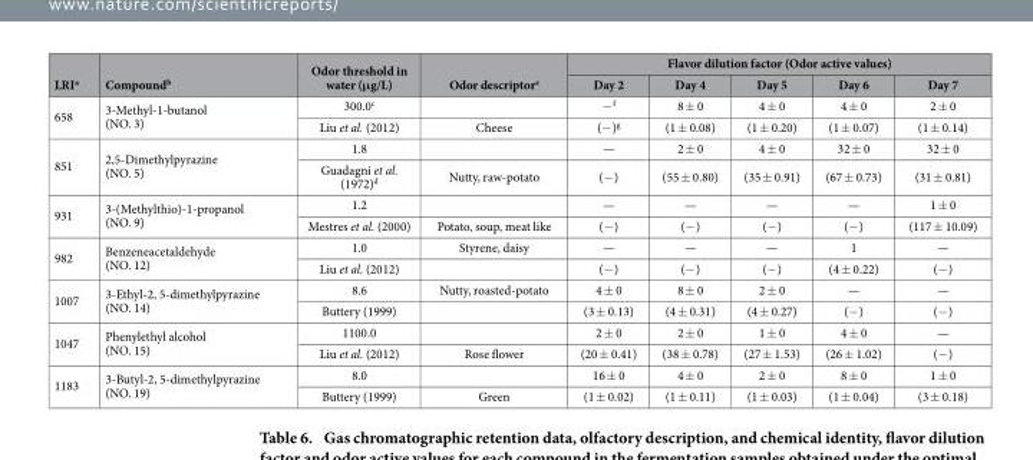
<table><thead><tr><td rowspan="2">LRI<sup>a</sup></td><td rowspan="2">Compound<sup>b</sup></td><td rowspan="2">Odor threshold in water (μg/L)</td><td rowspan="2">Odor descriptor<sup>e</sup></td><td colspan="5">Flavor dilution factor (Odor active values)</td></tr><tr><td>Day 2</td><td>Day 4</td><td>Day 5</td><td>Day 6</td><td>Day 7</td></tr></thead><tbody><tr><td rowspan="2">658</td><td rowspan="2">3-Methyl-1-butanol (NO. 3)</td><td>300.0<sup>c</sup></td><td></td><td>− f</td><td>8 ± 0</td><td>4 ± 0</td><td>4 ± 0</td><td>2 ± 0</td></tr><tr><td>Liu et al. (2012)</td><td>Cheese</td><td>(− )<sup>g</sup></td><td>(1 ± 0.08)</td><td>(1 ± 0.20)</td><td>(1 ± 0.07)</td><td>(1 ± 0.14)</td></tr><tr><td rowspan="2">851</td><td rowspan="2">2,5-Dimethylpyrazine (NO. 5)</td><td>1.8</td><td></td><td>—</td><td>2 ± 0</td><td>4 ± 0</td><td>32 ± 0</td><td>32 ± 0</td></tr><tr><td>Guadagni et al. (1972)<sup>d</sup></td><td>Nutty, raw-potato</td><td>(− )</td><td>(55 ± 0.80)</td><td>(35 ± 0.91)</td><td>(67 ± 0.73)</td><td>(31 ± 0.81)</td></tr><tr><td rowspan="2">931</td><td rowspan="2">3-(Methylthio)-1-propanol (NO. 9)</td><td>1.2</td><td></td><td>—</td><td>—</td><td>—</td><td>—</td><td>1 ± 0</td></tr><tr><td>Mestres et al. (2000)</td><td>Potato, soup, meat like</td><td>(− )</td><td>(− )</td><td>(− )</td><td>(− )</td><td>(117 ± 10.09)</td></tr><tr><td rowspan="2">982</td><td rowspan="2">Benzeneacetaldehyde (NO. 12)</td><td>1.0</td><td>Styrene, daisy</td><td>—</td><td>—</td><td>—</td><td>1</td><td>—</td></tr><tr><td>Liu et al. (2012)</td><td></td><td>(− )</td><td>(− )</td><td>(− )</td><td>(4 ± 0.22)</td><td>(− )</td></tr><tr><td rowspan="2">1007</td><td rowspan="2">3-Ethyl-2, 5-dimethylpyrazine (NO. 14)</td><td>8.6</td><td>Nutty, roasted-potato</td><td>4 ± 0</td><td>8 ± 0</td><td>2 ± 0</td><td>—</td><td>—</td></tr><tr><td>Buttery (1999)</td><td></td><td>(3 ± 0.13)</td><td>(4 ± 0.31)</td><td>(4 ± 0.27)</td><td>(− )</td><td>(− )</td></tr><tr><td rowspan="2">1047</td><td rowspan="2">Phenylethyl alcohol (NO. 15)</td><td>1100.0</td><td></td><td>2 ± 0</td><td>2 ± 0</td><td>1 ± 0</td><td>4 ± 0</td><td>—</td></tr><tr><td>Liu et al. (2012)</td><td>Rose flower</td><td>(20 ± 0.41)</td><td>(38 ± 0.78)</td><td>(27 ± 1.53)</td><td>(26 ± 1.02)</td><td>(− )</td></tr><tr><td rowspan="2">1183</td><td rowspan="2">3-Butyl-2, 5-dimethylpyrazine (NO. 19)</td><td>8.0</td><td></td><td>16 ± 0</td><td>4 ± 0</td><td>2 ± 0</td><td>8 ± 0</td><td>1 ± 0</td></tr><tr><td>Buttery (1999)</td><td>Green</td><td>(1 ± 0.02)</td><td>(1 ± 0.11)</td><td>(1 ± 0.03)</td><td>(1 ± 0.04)</td><td>(3 ± 0.18)</td></tr></tbody></table>